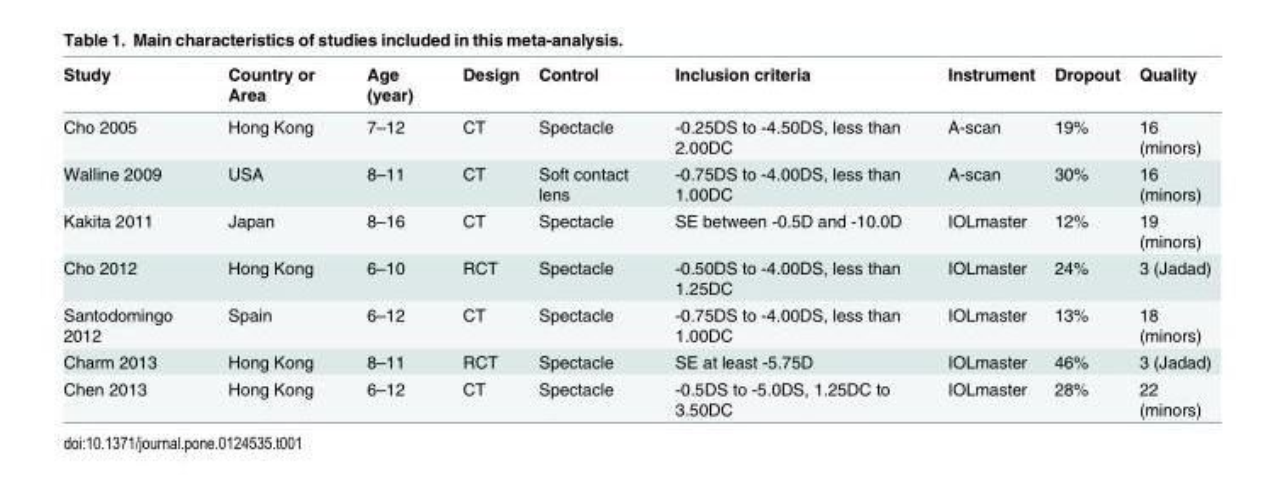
<table><thead><tr><td>Study</td><td>Country or Area</td><td>Age (year)</td><td>Design</td><td>Control</td><td>Inclusion criteria</td><td>Instrument</td><td>Dropout</td><td>Quality</td></tr></thead><tbody><tr><td>Cho 2005</td><td>Hong Kong</td><td>7–12</td><td>CT</td><td>Spectacle</td><td>-0.25DS to -4.50DS, less than 2.00DC</td><td>A-scan</td><td>19%</td><td>16 (minors)</td></tr><tr><td>Walline 2009</td><td>USA</td><td>8–11</td><td>CT</td><td>Soft contact lens</td><td>-0.75DS to -4.00DS, less than 1.00DC</td><td>A-scan</td><td>30%</td><td>16 (minors)</td></tr><tr><td>Kakita 2011</td><td>Japan</td><td>8–16</td><td>CT</td><td>Spectacle</td><td>SE between -0.5D and -10.0D</td><td>IOLmaster</td><td>12%</td><td>19 (minors)</td></tr><tr><td>Cho 2012</td><td>Hong Kong</td><td>6–10</td><td>RCT</td><td>Spectacle</td><td>-0.50DS to -4.00DS, less than 1.25DC</td><td>IOLmaster</td><td>24%</td><td>3 (Jadad)</td></tr><tr><td>Santodomingo 2012</td><td>Spain</td><td>6–12</td><td>CT</td><td>Spectacle</td><td>-0.75DS to -4.00DS, less than 1.00DC</td><td>IOLmaster</td><td>13%</td><td>18 (minors)</td></tr><tr><td>Charm 2013</td><td>Hong Kong</td><td>8–11</td><td>RCT</td><td>Spectacle</td><td>SE at least -5.75D</td><td>IOLmaster</td><td>46%</td><td>3 (Jadad)</td></tr><tr><td>Chen 2013</td><td>Hong Kong</td><td>6–12</td><td>CT</td><td>Spectacle</td><td>-0.5DS to -5.0DS, 1.25DC to 3.50DC</td><td>IOLmaster</td><td>28%</td><td>22 (minors)</td></tr></tbody></table>